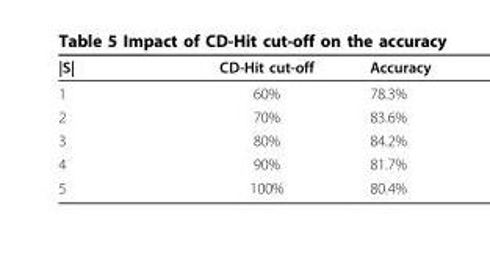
<table><thead><tr><td>|S|</td><td>CD-Hit cut-off</td><td>Accuracy</td></tr></thead><tbody><tr><td>1</td><td>60%</td><td>78.3%</td></tr><tr><td>2</td><td>70%</td><td>83.6%</td></tr><tr><td>3</td><td>80%</td><td>84.2%</td></tr><tr><td>4</td><td>90%</td><td>81.7%</td></tr><tr><td>5</td><td>100%</td><td>80.4%</td></tr></tbody></table>